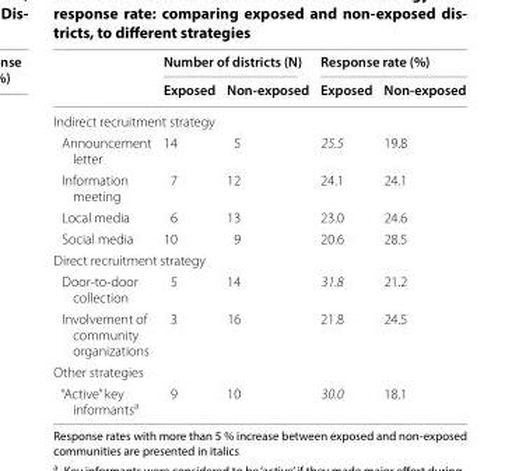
<table><thead><tr><td rowspan="2"></td><td colspan="2">Number of districts (N)</td><td colspan="2">Response rate (%)</td></tr><tr><td>Exposed</td><td>Non-exposed</td><td>Exposed</td><td>Non-exposed</td></tr></thead><tbody><tr><td colspan="5">Indirect recruitment strategy</td></tr><tr><td>Announcement letter</td><td>14</td><td>5</td><td>25.5</td><td>19.8</td></tr><tr><td>Information meeting</td><td>7</td><td>12</td><td>24.1</td><td>24.1</td></tr><tr><td>Local media</td><td>6</td><td>13</td><td>23.0</td><td>24.6</td></tr><tr><td>Social media</td><td>10</td><td>9</td><td>20.6</td><td>28.5</td></tr><tr><td colspan="5">Direct recruitment strategy</td></tr><tr><td>Door-to-door collection</td><td>5</td><td>14</td><td>31.8</td><td>21.2</td></tr><tr><td>Involvement of community organizations</td><td>3</td><td>16</td><td>21.8</td><td>24.5</td></tr><tr><td colspan="5">Other strategies</td></tr><tr><td>“Active” key informants<sup>a</sup></td><td>9</td><td>10</td><td>30.0</td><td>18.1</td></tr></tbody></table>